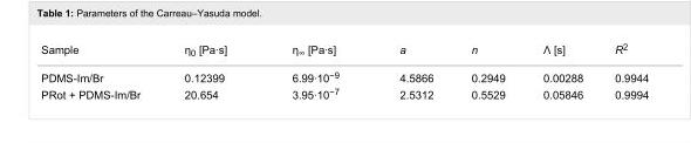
<table><tbody><tr><td>Sample</td><td>η<sub>0</sub> [Pa·s]</td><td>η<sub>∞</sub> [Pa·s]</td><td>a</td><td>n</td><td>Λ [s]</td><td>R<sup>2</sup></td></tr><tr><td>PDMS-Im/Br</td><td>0.12399</td><td>6.99·10<sup>−9</sup></td><td>4.5866</td><td>0.2949</td><td>0.00288</td><td>0.9944</td></tr><tr><td>PRot + PDMS-Im/Br</td><td>20.654</td><td>3.95·10<sup>−7</sup></td><td>2.5312</td><td>0.5529</td><td>0.05846</td><td>0.9994</td></tr></tbody></table>